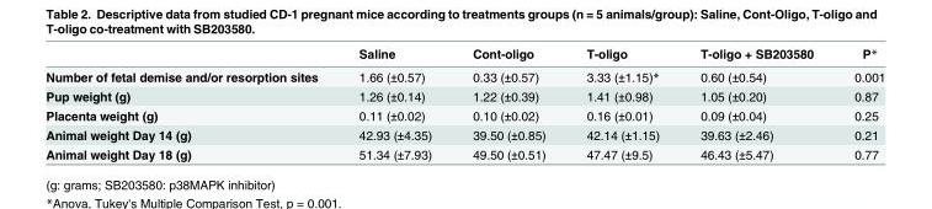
<table><thead><tr><td></td><td>Saline</td><td>Cont-oligo</td><td>T-oligo</td><td>T-oligo + SB203580</td><td>P*</td></tr></thead><tbody><tr><td>Number of fetal demise and/or resorption sites</td><td>1.66 (±0.57)</td><td>0.33 (±0.57)</td><td>3.33 (±1.15)*</td><td>0.60 (±0.54)</td><td>0.001</td></tr><tr><td>Pup weight (g)</td><td>1.26 (±0.14)</td><td>1.22 (±0.39)</td><td>1.41 (±0.98)</td><td>1.05 (±0.20)</td><td>0.87</td></tr><tr><td>Placenta weight (g)</td><td>0.11 (±0.02)</td><td>0.10 (±0.02)</td><td>0.16 (±0.01)</td><td>0.09 (±0.04)</td><td>0.25</td></tr><tr><td>Animal weight Day 14 (g)</td><td>42.93 (±4.35)</td><td>39.50 (±0.85)</td><td>42.14 (±1.15)</td><td>39.63 (±2.46)</td><td>0.21</td></tr><tr><td>Animal weight Day 18 (g)</td><td>51.34 (±7.93)</td><td>49.50 (±0.51)</td><td>47.47 (±9.5)</td><td>46.43 (±5.47)</td><td>0.77</td></tr></tbody></table>